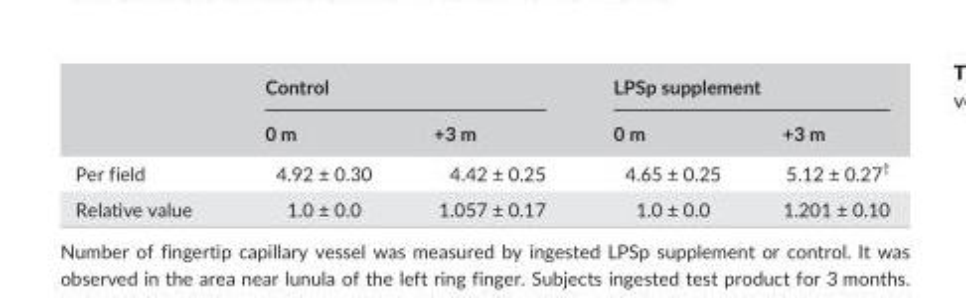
<table><thead><tr><td rowspan="2"></td><td colspan="2">Control</td><td colspan="2">LPSp supplement</td></tr><tr><td>0 m</td><td>+3 m</td><td>0 m</td><td>+3 m</td></tr></thead><tbody><tr><td>Per field</td><td>4.92 ± 0.30</td><td>4.42 ± 0.25</td><td>4.65 ± 0.25</td><td>5.12 ± 0.27†</td></tr><tr><td>Relative value</td><td>1.0 ± 0.0</td><td>1.057 ± 0.17</td><td>1.0 ± 0.0</td><td>1.201 ± 0.10</td></tr></tbody></table>